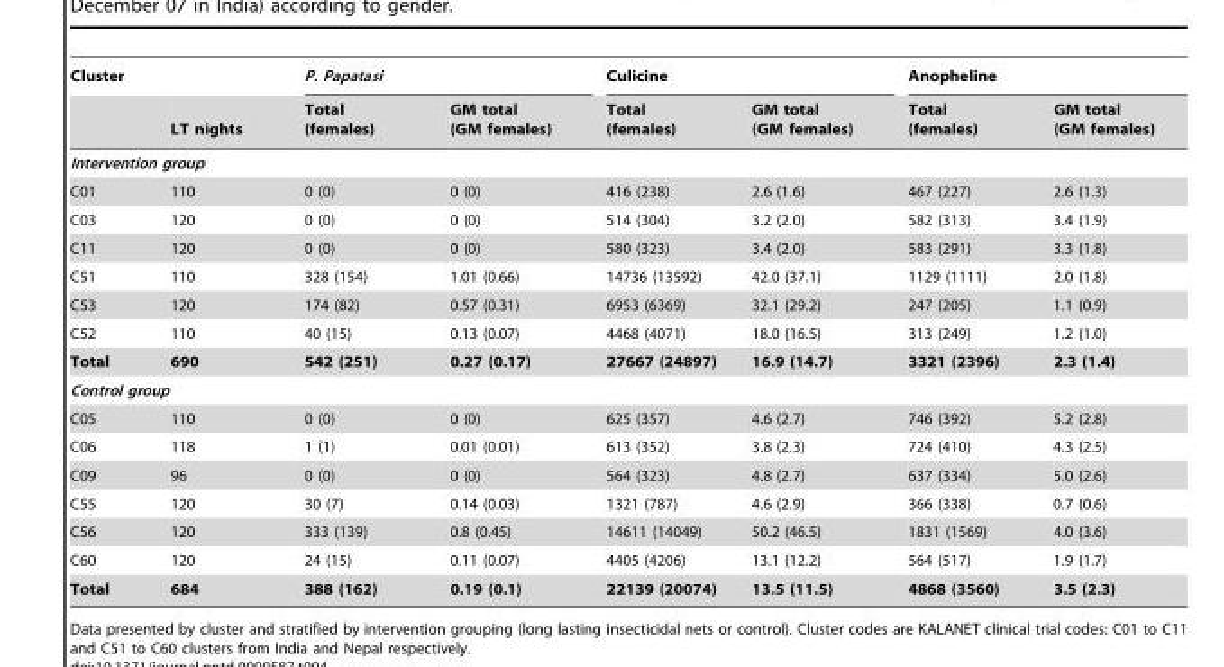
<table><thead><tr><td rowspan="2">Cluster</td><td rowspan="2">LT nights</td><td colspan="2">P. Papatasi</td><td colspan="2">Culicine</td><td colspan="2">Anopheline</td></tr><tr><td>Total (females)</td><td>GM total (GM females)</td><td>Total (females)</td><td>GM total (GM females)</td><td>Total (females)</td><td>GM total (GM females)</td></tr></thead><tbody><tr><td colspan="8">Intervention group</td></tr><tr><td>C01</td><td>110</td><td>0 (0)</td><td>0 (0)</td><td>416 (238)</td><td>2.6 (1.6)</td><td>467 (227)</td><td>2.6 (1.3)</td></tr><tr><td>C03</td><td>120</td><td>0 (0)</td><td>0 (0)</td><td>514 (304)</td><td>3.2 (2.0)</td><td>582 (313)</td><td>3.4 (1.9)</td></tr><tr><td>C11</td><td>120</td><td>0 (0)</td><td>0 (0)</td><td>580 (323)</td><td>3.4 (2.0)</td><td>583 (291)</td><td>3.3 (1.8)</td></tr><tr><td>C51</td><td>110</td><td>328 (154)</td><td>1.01 (0.66)</td><td>14736 (13592)</td><td>42.0 (37.1)</td><td>1129 (1111)</td><td>2.0 (1.8)</td></tr><tr><td>C53</td><td>120</td><td>174 (82)</td><td>0.57 (0.31)</td><td>6953 (6369)</td><td>32.1 (29.2)</td><td>247 (205)</td><td>1.1 (0.9)</td></tr><tr><td>C52</td><td>110</td><td>40 (15)</td><td>0.13 (0.07)</td><td>4468 (4071)</td><td>18.0 (16.5)</td><td>313 (249)</td><td>1.2 (1.0)</td></tr><tr><td>Total</td><td>690</td><td>542 (251)</td><td>0.27 (0.17)</td><td>27667 (24897)</td><td>16.9 (14.7)</td><td>3321 (2396)</td><td>2.3 (1.4)</td></tr><tr><td colspan="8">Control group</td></tr><tr><td>C05</td><td>110</td><td>0 (0)</td><td>0 (0)</td><td>625 (357)</td><td>4.6 (2.7)</td><td>746 (392)</td><td>5.2 (2.8)</td></tr><tr><td>C06</td><td>118</td><td>1 (1)</td><td>0.01 (0.01)</td><td>613 (352)</td><td>3.8 (2.3)</td><td>724 (410)</td><td>4.3 (2.5)</td></tr><tr><td>C09</td><td>96</td><td>0 (0)</td><td>0 (0)</td><td>564 (323)</td><td>4.8 (2.7)</td><td>637 (334)</td><td>5.0 (2.6)</td></tr><tr><td>C55</td><td>120</td><td>30 (7)</td><td>0.14 (0.03)</td><td>1321 (787)</td><td>4.6 (2.9)</td><td>366 (338)</td><td>0.7 (0.6)</td></tr><tr><td>C56</td><td>120</td><td>333 (139)</td><td>0.8 (0.45)</td><td>14611 (14049)</td><td>50.2 (46.5)</td><td>1831 (1569)</td><td>4.0 (3.6)</td></tr><tr><td>C60</td><td>120</td><td>24 (15)</td><td>0.11 (0.07)</td><td>4405 (4206)</td><td>13.1 (12.2)</td><td>564 (517)</td><td>1.9 (1.7)</td></tr><tr><td>Total</td><td>684</td><td>388 (162)</td><td>0.19 (0.1)</td><td>22139 (20074)</td><td>13.5 (11.5)</td><td>4868 (3560)</td><td>3.5 (2.3)</td></tr></tbody></table>